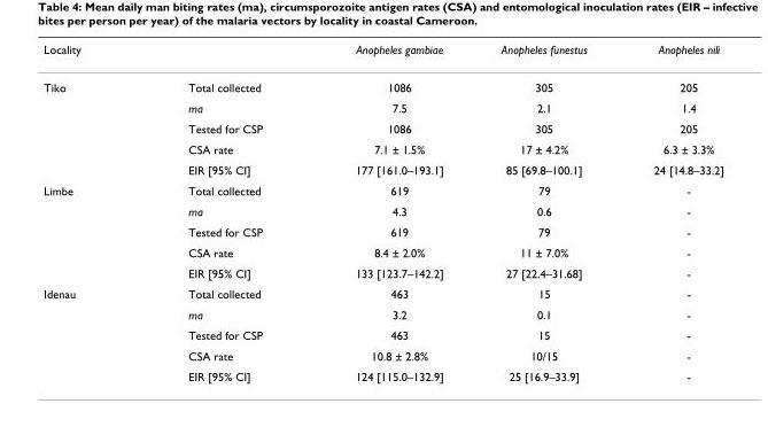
<table><thead><tr><td>Locality</td><td></td><td>Anopheles gambiae</td><td>Anopheles funestus</td><td>Anopheles nili</td></tr></thead><tbody><tr><td rowspan="5">Tiko</td><td>Total collected</td><td>1086</td><td>305</td><td>205</td></tr><tr><td>ma</td><td>7.5</td><td>2.1</td><td>1.4</td></tr><tr><td>Tested for CSP</td><td>1086</td><td>305</td><td>205</td></tr><tr><td>CSA rate</td><td>7.1 ± 1.5%</td><td>17 ± 4.2%</td><td>6.3 ± 3.3%</td></tr><tr><td>EIR [95% CI]</td><td>177 [161.0–193.1]</td><td>85 [69.8–100.1]</td><td>24 [14.8–33.2]</td></tr><tr><td rowspan="5">Limbe</td><td>Total collected</td><td>619</td><td>79</td><td>-</td></tr><tr><td>ma</td><td>4.3</td><td>0.6</td><td>-</td></tr><tr><td>Tested for CSP</td><td>619</td><td>79</td><td>-</td></tr><tr><td>CSA rate</td><td>8.4 ± 2.0%</td><td>11 ± 7.0%</td><td>-</td></tr><tr><td>EIR [95% CI]</td><td>133 [123.7–142.2]</td><td>27 [22.4–31.68]</td><td>-</td></tr><tr><td rowspan="5">Idenau</td><td>Total collected</td><td>463</td><td>15</td><td>-</td></tr><tr><td>ma</td><td>3.2</td><td>0.1</td><td>-</td></tr><tr><td>Tested for CSP</td><td>463</td><td>15</td><td>-</td></tr><tr><td>CSA rate</td><td>10.8 ± 2.8%</td><td>10/15</td><td>-</td></tr><tr><td>EIR [95% CI]</td><td>124 [115.0–132.9]</td><td>25 [16.9–33.9]</td><td>-</td></tr></tbody></table>